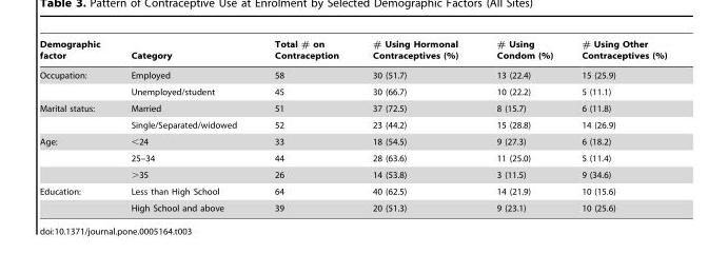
<table><thead><tr><td>Demographic factor</td><td>Category</td><td>Total # on Contraception</td><td># Using Hormonal Contraceptives (%)</td><td># Using Condom (%)</td><td># Using Other Contraceptives (%)</td></tr></thead><tbody><tr><td rowspan="2">Occupation:</td><td>Employed</td><td>58</td><td>30 (51.7)</td><td>13 (22.4)</td><td>15 (25.9)</td></tr><tr><td>Unemployed/student</td><td>45</td><td>30 (66.7)</td><td>10 (22.2)</td><td>5 (11.1)</td></tr><tr><td rowspan="2">Marital status:</td><td>Married</td><td>51</td><td>37 (72.5)</td><td>8 (15.7)</td><td>6 (11.8)</td></tr><tr><td>Single/Separated/widowed</td><td>52</td><td>23 (44.2)</td><td>15 (28.8)</td><td>14 (26.9)</td></tr><tr><td rowspan="3">Age:</td><td>&lt;24</td><td>33</td><td>18 (54.5)</td><td>9 (27.3)</td><td>6 (18.2)</td></tr><tr><td>25–34</td><td>44</td><td>28 (63.6)</td><td>11 (25.0)</td><td>5 (11.4)</td></tr><tr><td>&gt;35</td><td>26</td><td>14 (53.8)</td><td>3 (11.5)</td><td>9 (34.6)</td></tr><tr><td rowspan="2">Education:</td><td>Less than High School</td><td>64</td><td>40 (62.5)</td><td>14 (21.9)</td><td>10 (15.6)</td></tr><tr><td>High School and above</td><td>39</td><td>20 (51.3)</td><td>9 (23.1)</td><td>10 (25.6)</td></tr></tbody></table>